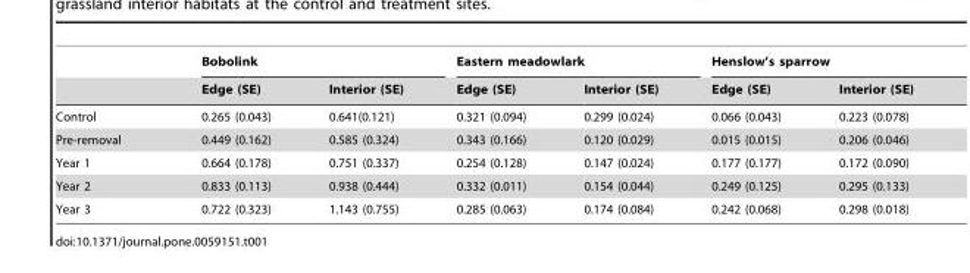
<table><thead><tr><td rowspan="2"></td><td colspan="2">Bobolink</td><td colspan="2">Eastern meadowlark</td><td colspan="2">Henslow’s sparrow</td></tr><tr><td>Edge (SE)</td><td>Interior (SE)</td><td>Edge (SE)</td><td>Interior (SE)</td><td>Edge (SE)</td><td>Interior (SE)</td></tr></thead><tbody><tr><td>Control</td><td>0.265 (0.043)</td><td>0.641(0.121)</td><td>0.321 (0.094)</td><td>0.299 (0.024)</td><td>0.066 (0.043)</td><td>0.223 (0.078)</td></tr><tr><td>Pre-removal</td><td>0.449 (0.162)</td><td>0.585 (0.324)</td><td>0.343 (0.166)</td><td>0.120 (0.029)</td><td>0.015 (0.015)</td><td>0.206 (0.046)</td></tr><tr><td>Year 1</td><td>0.664 (0.178)</td><td>0.751 (0.337)</td><td>0.254 (0.128)</td><td>0.147 (0.024)</td><td>0.177 (0.177)</td><td>0.172 (0.090)</td></tr><tr><td>Year 2</td><td>0.833 (0.113)</td><td>0.938 (0.444)</td><td>0.332 (0.011)</td><td>0.154 (0.044)</td><td>0.249 (0.125)</td><td>0.295 (0.133)</td></tr><tr><td>Year 3</td><td>0.722 (0.323)</td><td>1.143 (0.755)</td><td>0.285 (0.063)</td><td>0.174 (0.084)</td><td>0.242 (0.068)</td><td>0.298 (0.018)</td></tr></tbody></table>